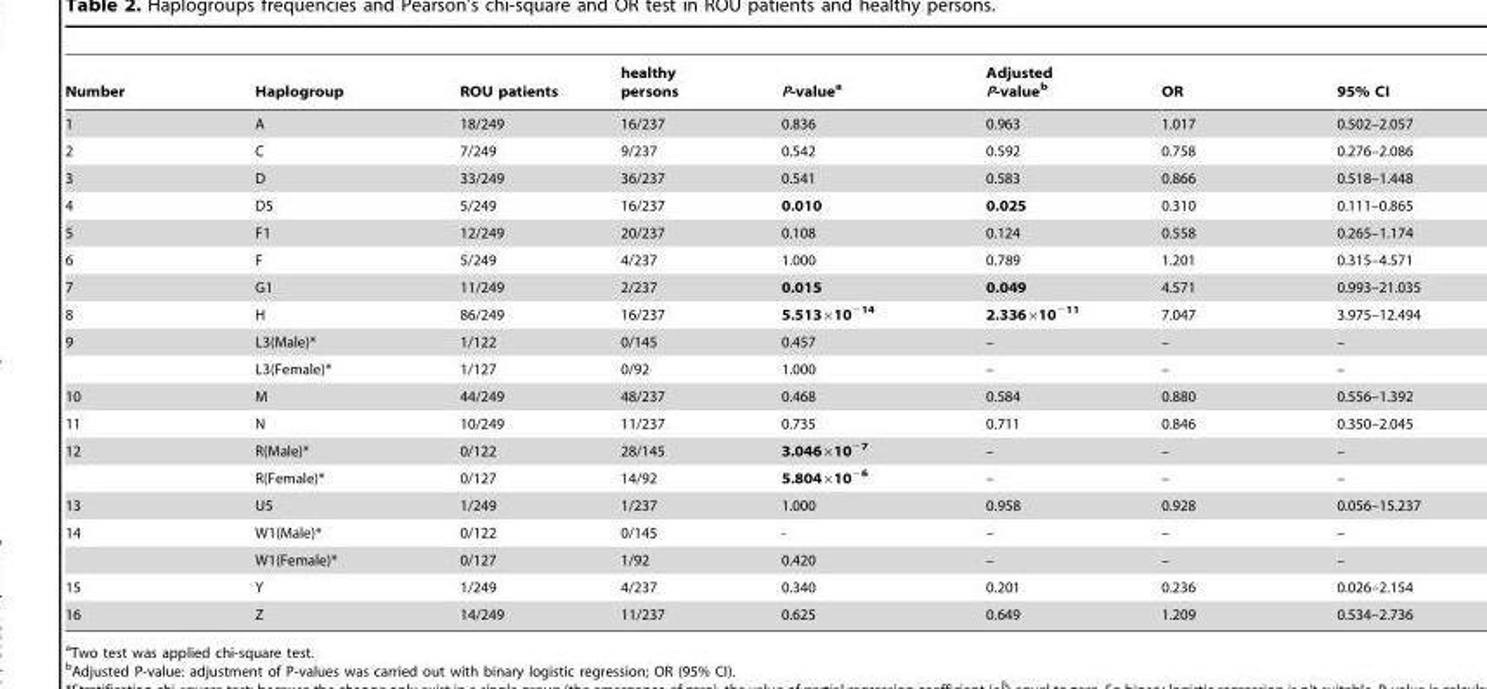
<table><thead><tr><td>Number</td><td>Haplogroup</td><td>ROU patients</td><td>healthy persons</td><td>P-value<sup>a</sup></td><td>Adjusted P-value<sup>b</sup></td><td>OR</td><td>95% CI</td></tr></thead><tbody><tr><td>1</td><td>A</td><td>18/249</td><td>16/237</td><td>0.836</td><td>0.963</td><td>1.017</td><td>0.502–2.057</td></tr><tr><td>2</td><td>C</td><td>7/249</td><td>9/237</td><td>0.542</td><td>0.592</td><td>0.758</td><td>0.276–2.086</td></tr><tr><td>3</td><td>D</td><td>33/249</td><td>36/237</td><td>0.541</td><td>0.583</td><td>0.866</td><td>0.518–1.448</td></tr><tr><td>4</td><td>D5</td><td>5/249</td><td>16/237</td><td>0.010</td><td>0.025</td><td>0.310</td><td>0.111–0.865</td></tr><tr><td>5</td><td>F1</td><td>12/249</td><td>20/237</td><td>0.108</td><td>0.124</td><td>0.558</td><td>0.265–1.174</td></tr><tr><td>6</td><td>F</td><td>5/249</td><td>4/237</td><td>1.000</td><td>0.789</td><td>1.201</td><td>0.315–4.571</td></tr><tr><td>7</td><td>G1</td><td>11/249</td><td>2/237</td><td>0.015</td><td>0.049</td><td>4.571</td><td>0.993–21.035</td></tr><tr><td>8</td><td>H</td><td>86/249</td><td>16/237</td><td>5.513×10<sup>−14</sup></td><td>2.336×10<sup>−11</sup></td><td>7.047</td><td>3.975–12.494</td></tr><tr><td rowspan="2">9</td><td>L3(Male)*</td><td>1/122</td><td>0/145</td><td>0.457</td><td>–</td><td>–</td><td>–</td></tr><tr><td>L3(Female)*</td><td>1/127</td><td>0/92</td><td>1.000</td><td>–</td><td>–</td><td>–</td></tr><tr><td>10</td><td>M</td><td>44/249</td><td>48/237</td><td>0.468</td><td>0.584</td><td>0.880</td><td>0.556–1.392</td></tr><tr><td>11</td><td>N</td><td>10/249</td><td>11/237</td><td>0.735</td><td>0.711</td><td>0.846</td><td>0.350–2.045</td></tr><tr><td rowspan="2">12</td><td>R(Male)*</td><td>0/122</td><td>28/145</td><td>3.046×10<sup>−7</sup></td><td>–</td><td>–</td><td>–</td></tr><tr><td>R(Female)*</td><td>0/127</td><td>14/92</td><td>5.804×10<sup>−6</sup></td><td>–</td><td>–</td><td>–</td></tr><tr><td>13</td><td>U5</td><td>1/249</td><td>1/237</td><td>1.000</td><td>0.958</td><td>0.928</td><td>0.056–15.237</td></tr><tr><td rowspan="2">14</td><td>W1(Male)*</td><td>0/122</td><td>0/145</td><td>-</td><td>–</td><td>–</td><td>–</td></tr><tr><td>W1(Female)*</td><td>0/127</td><td>1/92</td><td>0.420</td><td>–</td><td>–</td><td>–</td></tr><tr><td>15</td><td>Y</td><td>1/249</td><td>4/237</td><td>0.340</td><td>0.201</td><td>0.236</td><td>0.026–2.154</td></tr><tr><td>16</td><td>Z</td><td>14/249</td><td>11/237</td><td>0.625</td><td>0.649</td><td>1.209</td><td>0.534–2.736</td></tr></tbody></table>